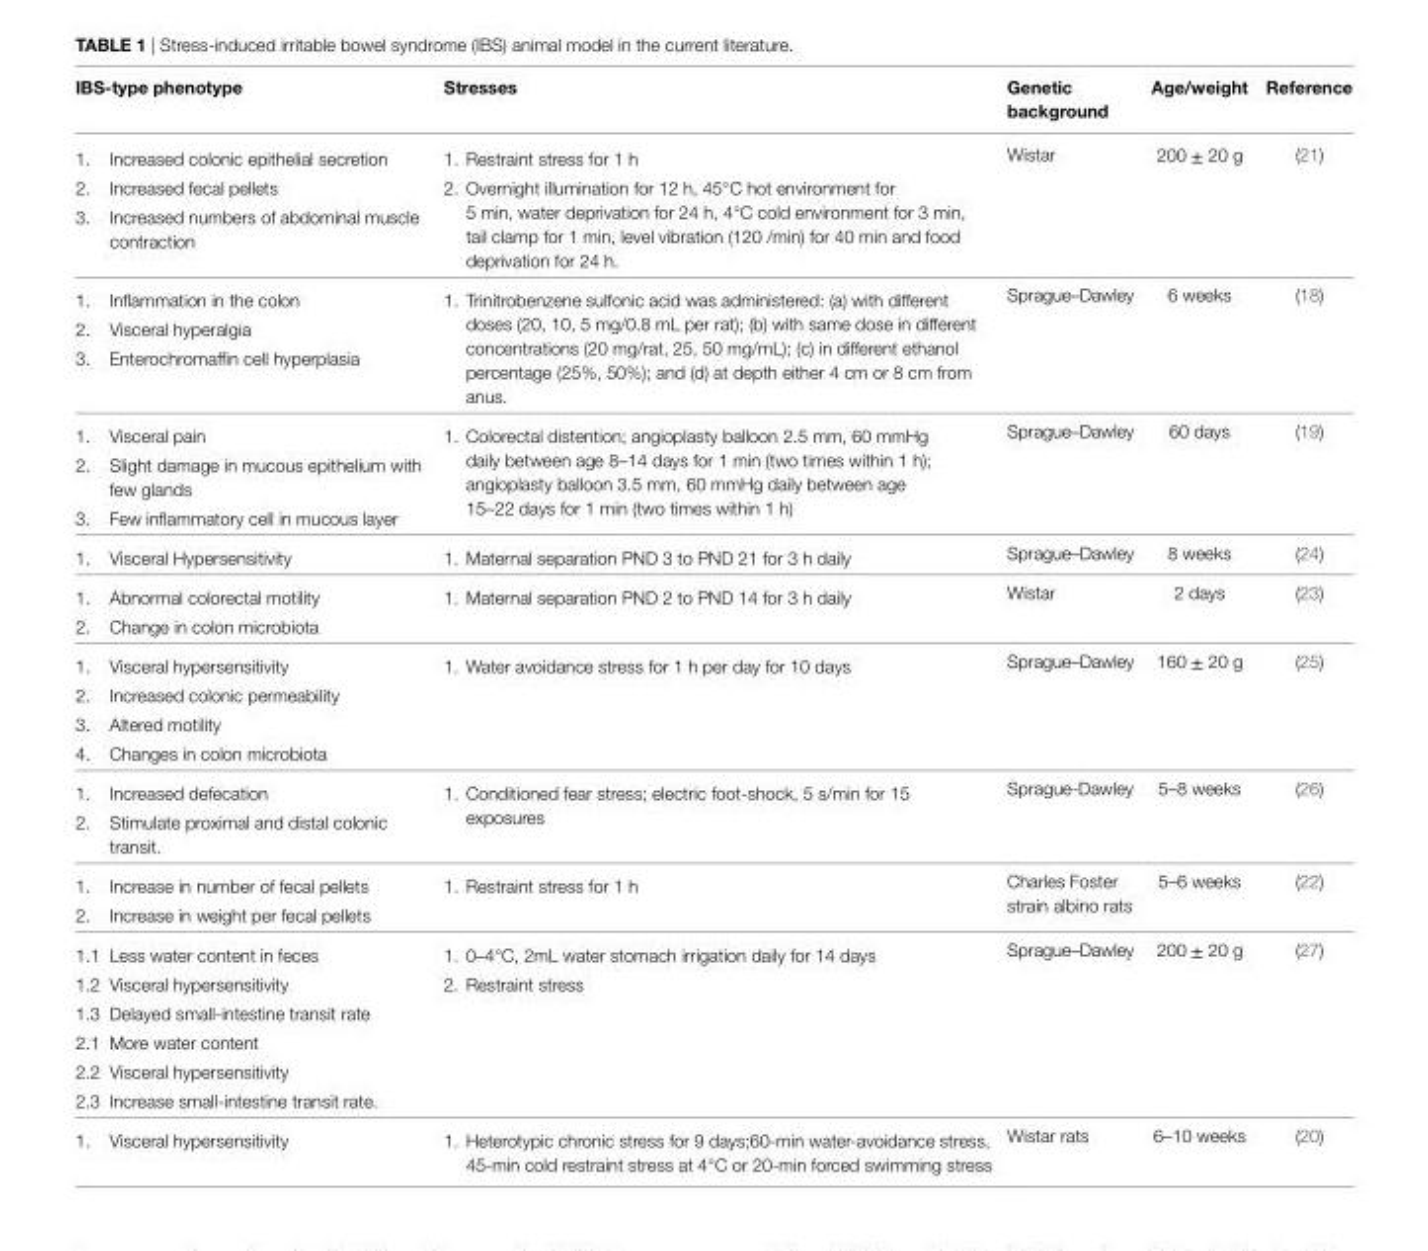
<table><thead><tr><td>iBS-type phenotype</td><td>Stresses</td><td>Genetic background</td><td>Age/weight</td><td>Reference</td></tr></thead><tbody><tr><td>1. Increased colonic epithelial secretion 2. Increased fecal pellets 3. Increased numbers of abdominal muscle contraction</td><td>1. Restraint stress for 1 h 2. Overnight illumination for 12 h, 45°C hot environment for 5 min, water deprivation for 24 h, 4°C cold environment for 3 min, tail clamp for 1 min, level vibration (120 /min) for 40 min and food deprivation for 24 h.</td><td>Wistar</td><td>200 ± 20 g</td><td>(21)</td></tr><tr><td>1. Inflammation in the colon 2. Visceral hyperalgia 3. Enterochromaffin cell hyperplasia</td><td>1. Trinitrobenzene sulfonic acid was administered: (a) with different doses (20, 10, 5 mg/0.8 mL per rat); (b) with same dose in different concentrations (20 mg/rat, 25, 50 mg/mL); (c) in different ethanol percentage (25%, 50%); and (d) at depth either 4 cm or 8 cm from anus.</td><td>Sprague–Dawley</td><td>6 weeks</td><td>(18)</td></tr><tr><td>1. Visceral pain 2. Slight damage in mucous epithelium with few glands 3. Few inflammatory cell in mucous layer</td><td>1. Colorectal distention; angioplasty balloon 2.5 mm, 60 mmHg daily between age 8–14 days for 1 min (two times within 1 h); angioplasty balloon 3.5 mm, 60 mmHg daily between age 15–22 days for 1 min (two times within 1 h)</td><td>Sprague–Dawley</td><td>60 days</td><td>(19)</td></tr><tr><td>1. Visceral Hypersensitivity</td><td>1. Maternal separation PND 3 to PND 21 for 3 h daily</td><td>Sprague–Dawley</td><td>8 weeks</td><td>(24)</td></tr><tr><td>1. Abnormal colorectal motility 2. Change in colon microbiota</td><td>1. Maternal separation PND 2 to PND 14 for 3 h daily</td><td>Wistar</td><td>2 days</td><td>(23)</td></tr><tr><td>1. Visceral hypersensitivity 2. Increased colonic permeability 3. Altered motility 4. Changes in colon microbiota</td><td>1. Water avoidance stress for 1 h per day for 10 days</td><td>Sprague–Dawley</td><td>160 ± 20 g</td><td>(25)</td></tr><tr><td>1. Increased defecation 2. Stimulate proximal and distal colonic transit.</td><td>1. Conditioned fear stress; electric foot-shock, 5 s/min for 15 exposures</td><td>Sprague-Dawley</td><td>5–8 weeks</td><td>(26)</td></tr><tr><td>1. Increase in number of fecal pellets 2. Increase in weight per fecal pellets</td><td>1. Restraint stress for 1 h</td><td>Charles Foster strain albino rats</td><td>5–6 weeks</td><td>(22)</td></tr><tr><td>1.1 Less water content in feces 1.2 Visceral hypersensitivity 1.3 Delayed small-intestine transit rate 2.1 More water content 2.2 Visceral hypersensitivity 2.3 Increase small-intestine transit rate.</td><td>1. 0–4°C, 2mL water stomach irrigation daily for 14 days 2. Restraint stress</td><td>Sprague–Dawley</td><td>200 ± 20 g</td><td>(27)</td></tr><tr><td>1. Visceral hypersensitivity</td><td>1. Heterotypic chronic stress for 9 days;60-min water-avoidance stress, 45-min cold restraint stress at 4°C or 20-min forced swimming stress</td><td>Wistar rats</td><td>6–10 weeks</td><td>(20)</td></tr></tbody></table>